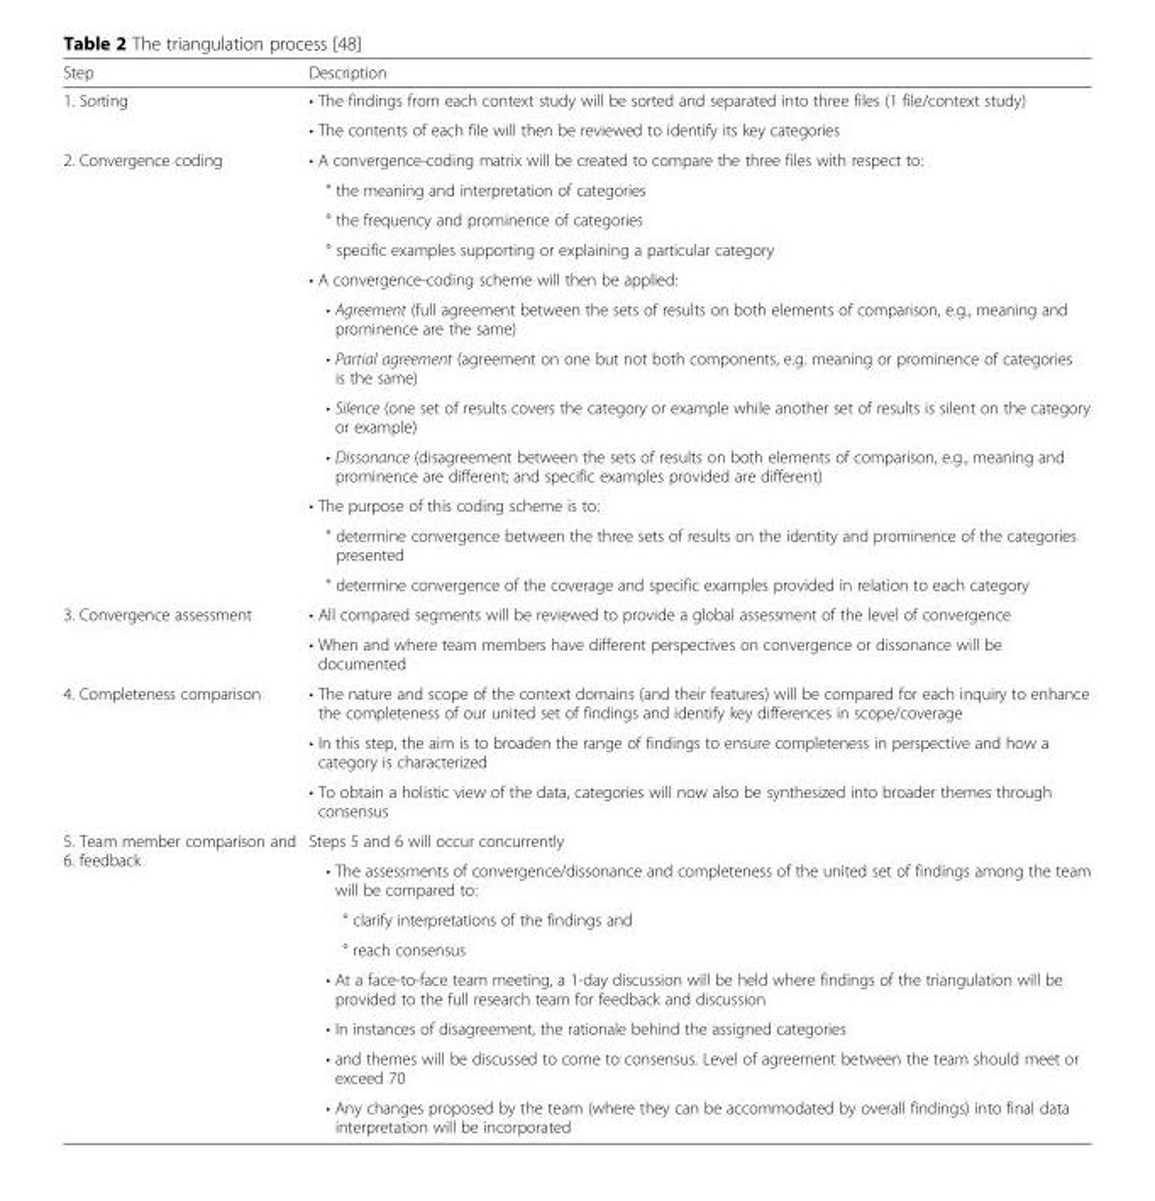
<table><thead><tr><td>Step</td><td>Description</td></tr></thead><tbody><tr><td rowspan="2">1. Sorting</td><td>• The findings from each context study will be sorted and separated into three files (1 file/context study)</td></tr><tr><td>• The contents of each file will then be reviewed to identify its key categories</td></tr><tr><td rowspan="12">2. Convergence coding</td><td>• A convergence-coding matrix will be created to compare the three files with respect to:</td></tr><tr><td>° the meaning and interpretation of categories</td></tr><tr><td>° the frequency and prominence of categories</td></tr><tr><td>° specific examples supporting or explaining a particular category</td></tr><tr><td>• A convergence-coding scheme will then be applied:</td></tr><tr><td>• Agreement (full agreement between the sets of results on both elements of comparison, e.g., meaning and prominence are the same)</td></tr><tr><td>• Partial agreement (agreement on one but not both components, e.g. meaning or prominence of categories is the same)</td></tr><tr><td>• Silence (one set of results covers the category or example while another set of results is silent on the category or example)</td></tr><tr><td>• Dissonance (disagreement between the sets of results on both elements of comparison, e.g., meaning and prominence are different; and specific examples provided are different)</td></tr><tr><td>• The purpose of this coding scheme is to:</td></tr><tr><td>° determine convergence between the three sets of results on the identity and prominence of the categories presented</td></tr><tr><td>° determine convergence of the coverage and specific examples provided in relation to each category</td></tr><tr><td rowspan="2">3. Convergence assessment</td><td>• All compared segments will be reviewed to provide a global assessment of the level of convergence</td></tr><tr><td>• When and where team members have different perspectives on convergence or dissonance will be documented</td></tr><tr><td rowspan="3">4. Completeness comparison</td><td>• The nature and scope of the context domains (and their features) will be compared for each inquiry to enhance the completeness of our united set of findings and identify key differences in scope/coverage</td></tr><tr><td>• In this step, the aim is to broaden the range of findings to ensure completeness in perspective and how a category is characterized</td></tr><tr><td>• To obtain a holistic view of the data, categories will now also be synthesized into broader themes through consensus</td></tr><tr><td rowspan="8">5. Team member comparison and 6. feedback</td><td>Steps 5 and 6 will occur concurrently</td></tr><tr><td>• The assessments of convergence/dissonance and completeness of the united set of findings among the team will be compared to:</td></tr><tr><td>° clarify interpretations of the findings and</td></tr><tr><td>° reach consensus</td></tr><tr><td>• At a face-to-face team meeting, a 1-day discussion will be held where findings of the triangulation will be provided to the full research team for feedback and discussion</td></tr><tr><td>• In instances of disagreement, the rationale behind the assigned categories</td></tr><tr><td>• and themes will be discussed to come to consensus. Level of agreement between the team should meet or exceed 70</td></tr><tr><td>• Any changes proposed by the team (where they can be accommodated by overall findings) into final data interpretation will be incorporated</td></tr></tbody></table>